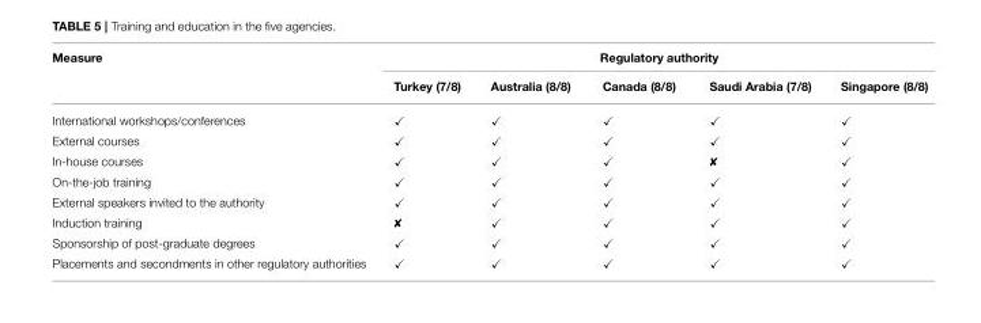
<table><thead><tr><td rowspan="2">Measure</td><td colspan="5">Regulatory authority</td></tr><tr><td>Turkey (7/8)</td><td>Australia (8/8)</td><td>Canada (8/8)</td><td>Saudi Arabia (7/8)</td><td>Singapore (8/8)</td></tr></thead><tbody><tr><td>International workshops/conferences</td><td>✓</td><td>✓</td><td>✓</td><td>✓</td><td>✓</td></tr><tr><td>External courses</td><td>✓</td><td>✓</td><td>✓</td><td>✓</td><td>✓</td></tr><tr><td>In-house courses</td><td>✓</td><td>✓</td><td>✓</td><td></td><td>✓</td></tr><tr><td>On-the-job training</td><td>✓</td><td>✓</td><td>✓</td><td>✓</td><td>✓</td></tr><tr><td>External speakers invited to the authority</td><td>✓</td><td>✓</td><td>✓</td><td>✓</td><td>✓</td></tr><tr><td>Induction training</td><td></td><td>✓</td><td>✓</td><td>✓</td><td>✓</td></tr><tr><td>Sponsorship of post-graduate degrees</td><td>✓</td><td>✓</td><td>✓</td><td>✓</td><td>✓</td></tr><tr><td>Placements and secondments in other regulatory authorities</td><td>✓</td><td>✓</td><td>✓</td><td>✓</td><td>✓</td></tr></tbody></table>